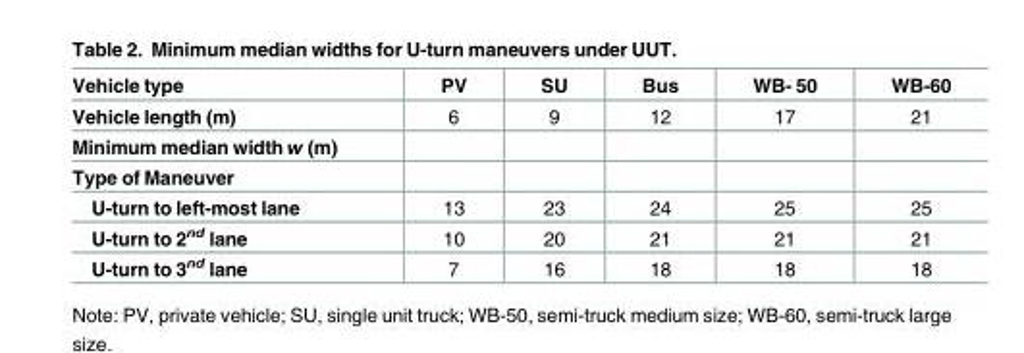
<table><thead><tr><td>Vehicle type</td><td>PV</td><td>SU</td><td>Bus</td><td>WB- 50</td><td>WB-60</td></tr></thead><tbody><tr><td>Vehicle length (m)</td><td>6</td><td>9</td><td>12</td><td>17</td><td>21</td></tr><tr><td colspan="6">Minimum median width w (m)</td></tr><tr><td colspan="6">Type of Maneuver</td></tr><tr><td>U-turn to left-most lane</td><td>13</td><td>23</td><td>24</td><td>25</td><td>25</td></tr><tr><td>U-turn to 2<sup>nd</sup> lane</td><td>10</td><td>20</td><td>21</td><td>21</td><td>21</td></tr><tr><td>U-turn to 3<sup>nd</sup> lane</td><td>7</td><td>16</td><td>18</td><td>18</td><td>18</td></tr></tbody></table>